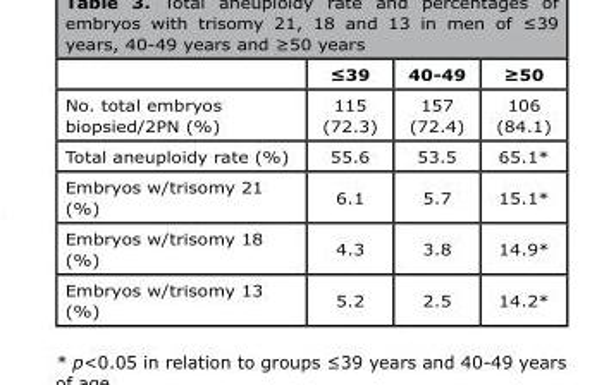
<table><thead><tr><td></td><td>≤39</td><td>40-49</td><td>≥50</td></tr></thead><tbody><tr><td>No. total embryos biopsied/2PN (%)</td><td>115 (72.3)</td><td>157 (72.4)</td><td>106 (84.1)</td></tr><tr><td>Total aneuploidy rate (%)</td><td>55.6</td><td>53.5</td><td>65.1*</td></tr><tr><td>Embryos w/trisomy 21 (%)</td><td>6.1</td><td>5.7</td><td>15.1*</td></tr><tr><td>Embryos w/trisomy 18 (%)</td><td>4.3</td><td>3.8</td><td>14.9*</td></tr><tr><td>Embryos w/trisomy 13 (%)</td><td>5.2</td><td>2.5</td><td>14.2*</td></tr></tbody></table>